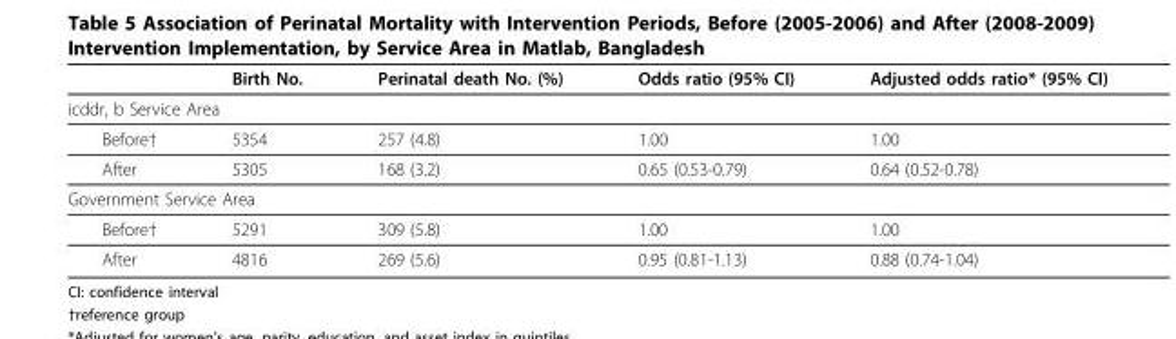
<table><thead><tr><td></td><td>Birth No.</td><td>Perinatal death No. (%)</td><td>Odds ratio (95% CI)</td><td>Adjusted odds ratio* (95% CI)</td></tr></thead><tbody><tr><td colspan="5">icddr, b Service Area</td></tr><tr><td>Before†</td><td>5354</td><td>257 (4.8)</td><td>1.00</td><td>1.00</td></tr><tr><td>After</td><td>5305</td><td>168 (3.2)</td><td>0.65 (0.53-0.79)</td><td>0.64 (0.52-0.78)</td></tr><tr><td colspan="5">Government Service Area</td></tr><tr><td>Before†</td><td>5291</td><td>309 (5.8)</td><td>1.00</td><td>1.00</td></tr><tr><td>After</td><td>4816</td><td>269 (5.6)</td><td>0.95 (0.81-1.13)</td><td>0.88 (0.74-1.04)</td></tr></tbody></table>